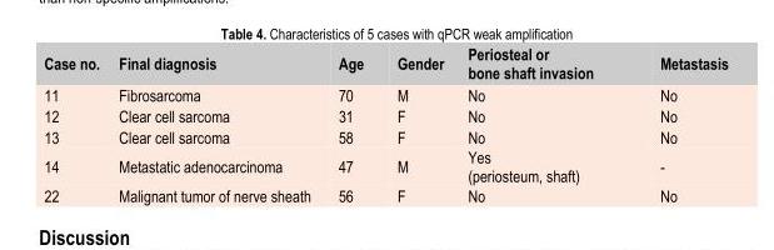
<table><thead><tr><td>Case no.</td><td>Final diagnosis</td><td>Age</td><td>Gender</td><td>Periosteal or bone shaft invasion</td><td>Metastasis</td></tr></thead><tbody><tr><td>11</td><td>Fibrosarcoma</td><td>70</td><td>M</td><td>No</td><td>No</td></tr><tr><td>12</td><td>Clear cell sarcoma</td><td>31</td><td>F</td><td>No</td><td>No</td></tr><tr><td>13</td><td>Clear cell sarcoma</td><td>58</td><td>F</td><td>No</td><td>No</td></tr><tr><td>14</td><td>Metastatic adenocarcinoma</td><td>47</td><td>M</td><td>Yes (periosteum, shaft)</td><td>-</td></tr><tr><td>22</td><td>Malignant tumor of nerve sheath</td><td>56</td><td>F</td><td>No</td><td>No</td></tr></tbody></table>